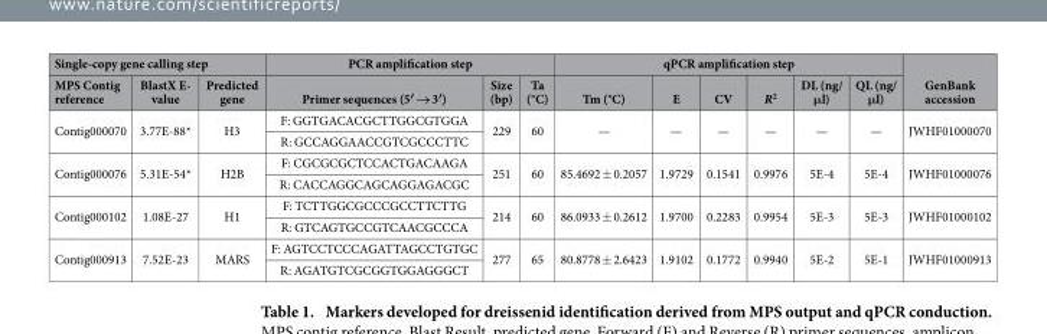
<table><thead><tr><td colspan="3">Single-copy gene calling step</td><td colspan="3">PCR amplification step</td><td colspan="6">qPCR amplification step</td><td rowspan="2">GenBank accession</td></tr><tr><td>MPS Contig reference</td><td>BlastX E- value</td><td>Predicted gene</td><td>Primer sequences (5′ → 3′)</td><td>Size (bp)</td><td>Ta (°C)</td><td>Tm (°C)</td><td>E</td><td>CV</td><td>R<sup>2</sup></td><td>DL (ng/ μl)</td><td>QL (ng/ μl)</td></tr></thead><tbody><tr><td rowspan="2">Contig000070</td><td rowspan="2">3.77E-88*</td><td rowspan="2">H3</td><td>F: GGTGACACGCTTGGCGTGGA</td><td rowspan="2">229</td><td rowspan="2">60</td><td rowspan="2">—</td><td rowspan="2">—</td><td rowspan="2">—</td><td rowspan="2">—</td><td rowspan="2">—</td><td rowspan="2">—</td><td rowspan="2">JWHF01000070</td></tr><tr><td>R: GCCAGGAACCGTCGCCCTTC</td></tr><tr><td rowspan="2">Contig000076</td><td rowspan="2">5.31E-54*</td><td rowspan="2">H2B</td><td>F: CGCGCGCTCCACTGACAAGA</td><td rowspan="2">251</td><td rowspan="2">60</td><td rowspan="2">85.4692 ± 0.2057</td><td rowspan="2">1.9729</td><td rowspan="2">0.1541</td><td rowspan="2">0.9976</td><td rowspan="2">5E-4</td><td rowspan="2">5E-4</td><td rowspan="2">JWHF01000076</td></tr><tr><td>R: CACCAGGCAGCAGGAGACGC</td></tr><tr><td rowspan="2">Contig000102</td><td rowspan="2">1.08E-27</td><td rowspan="2">H1</td><td>F: TCTTGGCGCCCGCCTTCTTG</td><td rowspan="2">214</td><td rowspan="2">60</td><td rowspan="2">86.0933 ± 0.2612</td><td rowspan="2">1.9700</td><td rowspan="2">0.2283</td><td rowspan="2">0.9954</td><td rowspan="2">5E-3</td><td rowspan="2">5E-3</td><td rowspan="2">JWHF01000102</td></tr><tr><td>R: GTCAGTGCCGTCAACGCCCA</td></tr><tr><td rowspan="2">Contig000913</td><td rowspan="2">7.52E-23</td><td rowspan="2">MARS</td><td>F: AGTCCTCCCAGATTAGCCTGTGC</td><td rowspan="2">277</td><td rowspan="2">65</td><td rowspan="2">80.8778 ± 2.6423</td><td rowspan="2">1.9102</td><td rowspan="2">0.1772</td><td rowspan="2">0.9940</td><td rowspan="2">5E-2</td><td rowspan="2">5E-1</td><td rowspan="2">JWHF01000913</td></tr><tr><td>R: AGATGTCGCGGTGGAGGGCT</td></tr></tbody></table>